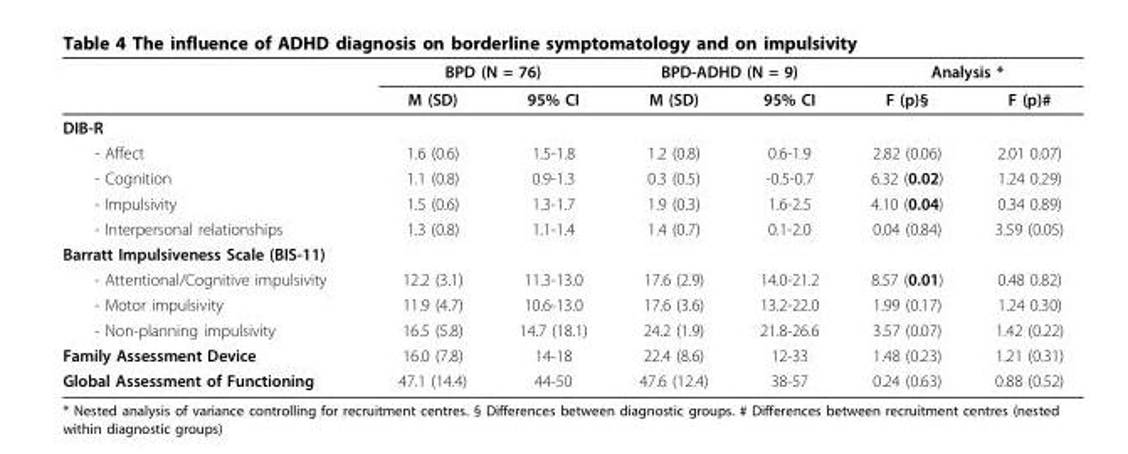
<table><thead><tr><td rowspan="2"></td><td colspan="2">BPD (N = 76)</td><td colspan="2">BPD-ADHD (N = 9)</td><td colspan="2">Analysis *</td></tr><tr><td>M (SD)</td><td>95% CI</td><td>M (SD)</td><td>95% CI</td><td>F (p)§</td><td>F (p)#</td></tr></thead><tbody><tr><td colspan="7">DIB-R</td></tr><tr><td>- Affect</td><td>1.6 (0.6)</td><td>1.5-1.8</td><td>1.2 (0.8)</td><td>0.6-1.9</td><td>2.82 (0.06)</td><td>2.01 0.07)</td></tr><tr><td>- Cognition</td><td>1.1 (0.8)</td><td>0.9-1.3</td><td>0.3 (0.5)</td><td>-0.5-0.7</td><td>6.32 (0.02)</td><td>1.24 0.29)</td></tr><tr><td>- Impulsivity</td><td>1.5 (0.6)</td><td>1.3-1.7</td><td>1.9 (0.3)</td><td>1.6-2.5</td><td>4.10 (0.04)</td><td>0.34 0.89)</td></tr><tr><td>- Interpersonal relationships</td><td>1.3 (0.8)</td><td>1.1-1.4</td><td>1.4 (0.7)</td><td>0.1-2.0</td><td>0.04 (0.84)</td><td>3.59 (0.05)</td></tr><tr><td colspan="7">Barratt Impulsiveness Scale (BIS-11)</td></tr><tr><td>- Attentional/Cognitive impulsivity</td><td>12.2 (3.1)</td><td>11.3-13.0</td><td>17.6 (2.9)</td><td>14.0-21.2</td><td>8.57 (0.01)</td><td>0.48 0.82)</td></tr><tr><td>- Motor impulsivity</td><td>11.9 (4.7)</td><td>10.6-13.0</td><td>17.6 (3.6)</td><td>13.2-22.0</td><td>1.99 (0.17)</td><td>1.24 0.30)</td></tr><tr><td>- Non-planning impulsivity</td><td>16.5 (5.8)</td><td>14.7 (18.1)</td><td>24.2 (1.9)</td><td>21.8-26.6</td><td>3.57 (0.07)</td><td>1.42 (0.22)</td></tr><tr><td>Family Assessment Device</td><td>16.0 (7.8)</td><td>14-18</td><td>22.4 (8.6)</td><td>12-33</td><td>1.48 (0.23)</td><td>1.21 (0.31)</td></tr><tr><td>Global Assessment of Functioning</td><td>47.1 (14.4)</td><td>44-50</td><td>47.6 (12.4)</td><td>38-57</td><td>0.24 (0.63)</td><td>0.88 (0.52)</td></tr></tbody></table>